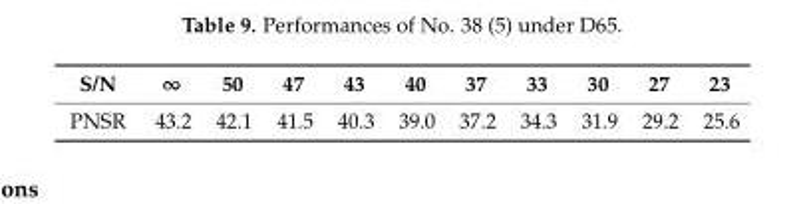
<table><thead><tr><td>S/N</td><td>∞</td><td>50</td><td>47</td><td>43</td><td>40</td><td>37</td><td>33</td><td>30</td><td>27</td><td>23</td></tr></thead><tbody><tr><td>PNSR</td><td>43.2</td><td>42.1</td><td>41.5</td><td>40.3</td><td>39.0</td><td>37.2</td><td>34.3</td><td>31.9</td><td>29.2</td><td>25.6</td></tr></tbody></table>